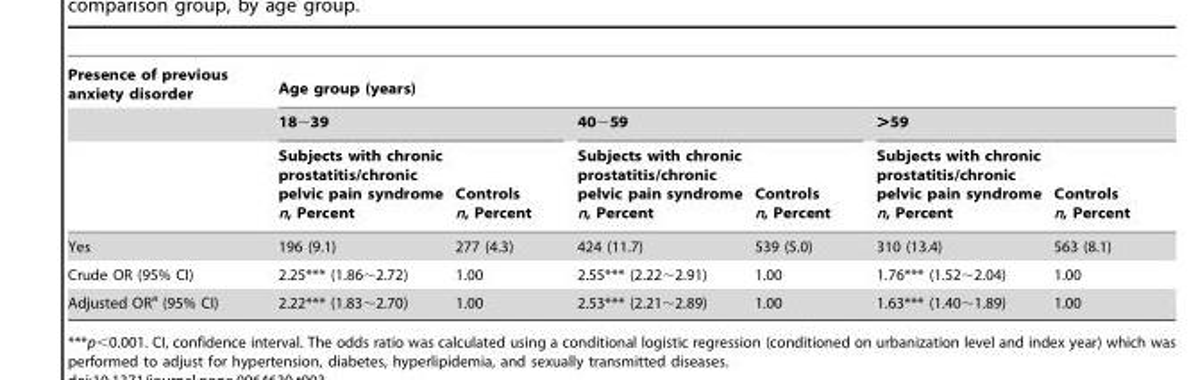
<table><thead><tr><td rowspan="3">Presence of previous anxiety disorder</td><td colspan="6">Age group (years)</td></tr><tr><td colspan="2">18∼39</td><td colspan="2">40∼59</td><td colspan="2">&gt;59</td></tr><tr><td>Subjects with chronic prostatitis/chronic pelvic pain syndrome n, Percent</td><td>Controls n, Percent</td><td>Subjects with chronic prostatitis/chronic pelvic pain syndrome n, Percent</td><td>Controls n, Percent</td><td>Subjects with chronic prostatitis/chronic pelvic pain syndrome n, Percent</td><td>Controls n, Percent</td></tr></thead><tbody><tr><td>Yes</td><td>196 (9.1)</td><td>277 (4.3)</td><td>424 (11.7)</td><td>539 (5.0)</td><td>310 (13.4)</td><td>563 (8.1)</td></tr><tr><td>Crude OR (95% CI)</td><td>2.25*** (1.86∼2.72)</td><td>1.00</td><td>2.55*** (2.22∼2.91)</td><td>1.00</td><td>1.76*** (1.52∼2.04)</td><td>1.00</td></tr><tr><td>Adjusted OR<sup>a</sup> (95% CI)</td><td>2.22*** (1.83∼2.70)</td><td>1.00</td><td>2.53*** (2.21∼2.89)</td><td>1.00</td><td>1.63*** (1.40∼1.89)</td><td>1.00</td></tr></tbody></table>